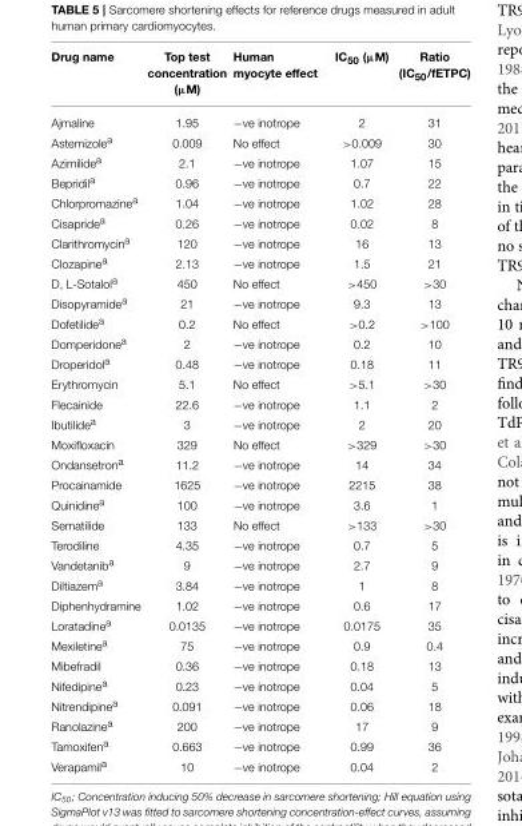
<table><thead><tr><td>Drug name</td><td>Top test concentration (µM)</td><td>Human myocyte effect</td><td>IC<sub>50</sub> (µM)</td><td>Ratio (IC<sub>50</sub>/fETPC)</td></tr></thead><tbody><tr><td>Ajmaline</td><td>1.95</td><td>−ve inotrope</td><td>2</td><td>31</td></tr><tr><td>Astemizole<sup>a</sup></td><td>0.009</td><td>No effect</td><td>&gt;0.009</td><td>30</td></tr><tr><td>Azimilide<sup>a</sup></td><td>2.1</td><td>−ve inotrope</td><td>1.07</td><td>15</td></tr><tr><td>Bepridil<sup>a</sup></td><td>0.96</td><td>−ve inotrope</td><td>0.7</td><td>22</td></tr><tr><td>Chlorpromazine<sup>a</sup></td><td>1.04</td><td>−ve inotrope</td><td>1.02</td><td>28</td></tr><tr><td>Cisapride<sup>a</sup></td><td>0.26</td><td>−ve inotrope</td><td>0.02</td><td>8</td></tr><tr><td>Clarithromycin<sup>a</sup></td><td>120</td><td>−ve inotrope</td><td>16</td><td>13</td></tr><tr><td>Clozapine<sup>a</sup></td><td>2.13</td><td>−ve inotrope</td><td>1.5</td><td>21</td></tr><tr><td>D, L-Sotalol<sup>a</sup></td><td>450</td><td>No effect</td><td>&gt;450</td><td>&gt;30</td></tr><tr><td>Disopyramide<sup>a</sup></td><td>21</td><td>−ve inotrope</td><td>9.3</td><td>13</td></tr><tr><td>Dofetilide<sup>a</sup></td><td>0.2</td><td>No effect</td><td>&gt;0.2</td><td>&gt;100</td></tr><tr><td>Domperidone<sup>a</sup></td><td>2</td><td>−ve inotrope</td><td>0.2</td><td>10</td></tr><tr><td>Droperidol<sup>a</sup></td><td>0.48</td><td>−ve inotrope</td><td>0.18</td><td>11</td></tr><tr><td>Erythromycin</td><td>5.1</td><td>No effect</td><td>&gt;5.1</td><td>&gt;30</td></tr><tr><td>Flecainide</td><td>22.6</td><td>−ve inotrope</td><td>1.1</td><td>2</td></tr><tr><td>Ibutilide<sup>a</sup></td><td>3</td><td>−ve inotrope</td><td>2</td><td>20</td></tr><tr><td>Moxifloxacin</td><td>329</td><td>No effect</td><td>&gt;329</td><td>&gt;30</td></tr><tr><td>Ondansetron<sup>a</sup></td><td>11.2</td><td>−ve inotrope</td><td>14</td><td>34</td></tr><tr><td>Procainamide</td><td>1625</td><td>−ve inotrope</td><td>2215</td><td>38</td></tr><tr><td>Quinidine<sup>a</sup></td><td>100</td><td>−ve inotrope</td><td>3.6</td><td>1</td></tr><tr><td>Sematilide</td><td>133</td><td>No effect</td><td>&gt;133</td><td>&gt;30</td></tr><tr><td>Terodiline</td><td>4.35</td><td>−ve inotrope</td><td>0.7</td><td>5</td></tr><tr><td>Vandetanib<sup>a</sup></td><td>9</td><td>−ve inotrope</td><td>2.7</td><td>9</td></tr><tr><td>Diltiazem<sup>a</sup></td><td>3.84</td><td>−ve inotrope</td><td>1</td><td>8</td></tr><tr><td>Diphenhydramine</td><td>1.02</td><td>−ve inotrope</td><td>0.6</td><td>17</td></tr><tr><td>Loratadine<sup>a</sup></td><td>0.0135</td><td>−ve inotrope</td><td>0.0175</td><td>35</td></tr><tr><td>Mexiletine<sup>a</sup></td><td>75</td><td>−ve inotrope</td><td>0.9</td><td>0.4</td></tr><tr><td>Mibefradil</td><td>0.36</td><td>−ve inotrope</td><td>0.18</td><td>13</td></tr><tr><td>Nifedipine<sup>a</sup></td><td>0.23</td><td>−ve inotrope</td><td>0.04</td><td>5</td></tr><tr><td>Nitrendipine<sup>a</sup></td><td>0.091</td><td>−ve inotrope</td><td>0.06</td><td>18</td></tr><tr><td>Ranolazine<sup>a</sup></td><td>200</td><td>−ve inotrope</td><td>17</td><td>9</td></tr><tr><td>Tamoxifen<sup>a</sup></td><td>0.663</td><td>−ve inotrope</td><td>0.99</td><td>36</td></tr><tr><td>Verapamil<sup>a</sup></td><td>10</td><td>−ve inotrope</td><td>0.04</td><td>2</td></tr></tbody></table>